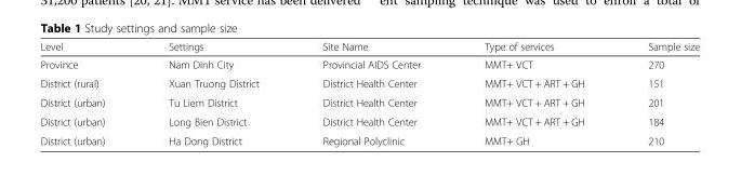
<table><thead><tr><td>Level</td><td>Settings</td><td>Site Name</td><td>Type of services</td><td>Sample size</td></tr></thead><tbody><tr><td>Province</td><td>Nam Dinh City</td><td>Provincial AIDS Center</td><td>MMT+ VCT</td><td>270</td></tr><tr><td>District (rural)</td><td>Xuan Truong District</td><td>District Health Center</td><td>MMT+ VCT + ART + GH</td><td>151</td></tr><tr><td>District (urban)</td><td>Tu Liem District</td><td>District Health Center</td><td>MMT+ VCT + ART + GH</td><td>201</td></tr><tr><td>District (urban)</td><td>Long Bien District</td><td>District Health Center</td><td>MMT+ VCT + ART + GH</td><td>184</td></tr><tr><td>District (urban)</td><td>Ha Dong District</td><td>Regional Polyclinic</td><td>MMT+ GH</td><td>210</td></tr></tbody></table>